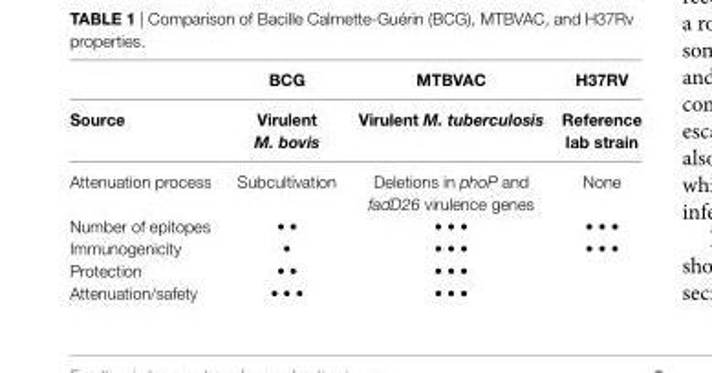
<table><thead><tr><td rowspan="2">Source</td><td rowspan="2">BCG virulent M. bovis</td><td rowspan="2">MTBvAC virulent M. tuberculosis</td><td rowspan="2">H37Rv Reference lab strain</td></tr><tr></tr></thead><tbody><tr><td>Attenuation process</td><td>Subcultivation</td><td>Deletions in phoP and fadD26 virulence genes</td><td>None</td></tr><tr><td>Number of epitopes</td><td>• •</td><td>• • •</td><td>• • •</td></tr><tr><td>Immunogenicity</td><td>•</td><td>• • •</td><td>• • •</td></tr><tr><td>Protection</td><td>• •</td><td>• • •</td><td></td></tr><tr><td>Attenuation/safety</td><td>• • •</td><td>• • •</td><td></td></tr></tbody></table>